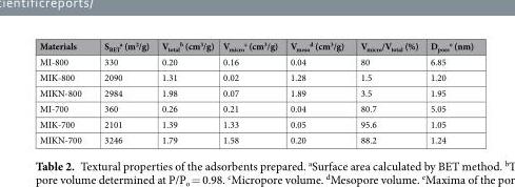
<table><thead><tr><td>Materials</td><td>S<sub>BET</sub> <sup>a</sup> (m<sup>2</sup>/g)</td><td>V<sub>total</sub> <sup>b</sup> (cm<sup>3</sup>/g)</td><td>V<sub>micro</sub> <sup>c</sup> (cm<sup>3</sup>/g)</td><td>V<sub>meso</sub> <sup>d</sup> (cm<sup>3</sup>/g)</td><td>V<sub>micro</sub>/V<sub>total</sub> (%)</td><td>D<sub>pore</sub> <sup>e</sup> (nm)</td></tr></thead><tbody><tr><td>MI-800</td><td>330</td><td>0.20</td><td>0.16</td><td>0.04</td><td>80</td><td>6.85</td></tr><tr><td>MIK-800</td><td>2090</td><td>1.31</td><td>0.02</td><td>1.28</td><td>1.5</td><td>1.20</td></tr><tr><td>MIKN-800</td><td>2984</td><td>1.98</td><td>0.07</td><td>1.89</td><td>3.5</td><td>1.95</td></tr><tr><td>MI-700</td><td>360</td><td>0.26</td><td>0.21</td><td>0.04</td><td>80.7</td><td>5.05</td></tr><tr><td>MIK-700</td><td>2101</td><td>1.39</td><td>1.33</td><td>0.05</td><td>95.6</td><td>1.05</td></tr><tr><td>MIKN-700</td><td>3246</td><td>1.79</td><td>1.58</td><td>0.20</td><td>88.2</td><td>1.24</td></tr></tbody></table>